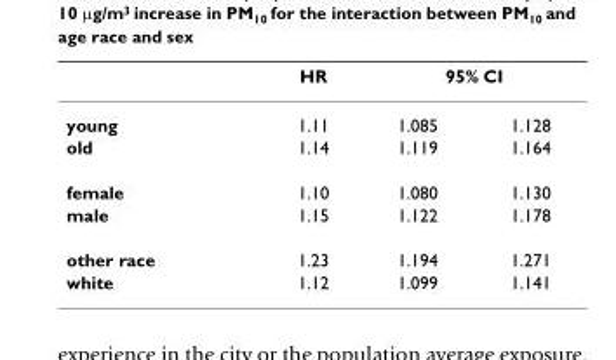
<table><thead><tr><td rowspan="2">young</td><td rowspan="2">HR 1.11</td><td colspan="2">95% CI</td></tr><tr><td>1.085</td><td>1.128</td></tr></thead><tbody><tr><td>old</td><td>1.14</td><td>1.119</td><td>1.164</td></tr><tr><td>female</td><td>1.10</td><td>1.080</td><td>1.130</td></tr><tr><td>male</td><td>1.15</td><td>1.122</td><td>1.178</td></tr><tr><td>other race</td><td>1.23</td><td>1.194</td><td>1.271</td></tr><tr><td>white</td><td>1.12</td><td>1.099</td><td>1.141</td></tr></tbody></table>